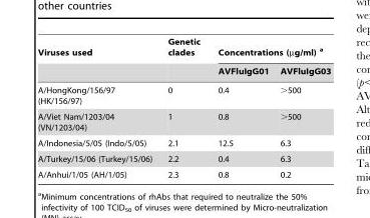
<table><thead><tr><td rowspan="2">Viruses used</td><td rowspan="2">Genetic clades</td><td colspan="2">Concentrations (µg/ml) a</td></tr><tr><td>AVFluIgG01</td><td>AVFluIgG03</td></tr></thead><tbody><tr><td>A/HongKong/156/97 (HK/156/97)</td><td>0</td><td>0.4</td><td>&gt;500</td></tr><tr><td>A/Viet Nam/1203/04 (VN/1203/04)</td><td>1</td><td>0.8</td><td>&gt;500</td></tr><tr><td>A/Indonesia/5/05 (Indo/5/05)</td><td>2.1</td><td>12.5</td><td>6.3</td></tr><tr><td>A/Turkey/15/06 (Turkey/15/06)</td><td>2.2</td><td>0.4</td><td>6.3</td></tr><tr><td>A/Anhui/1/05 (AH/1/05)</td><td>2.3</td><td>0.8</td><td>0.2</td></tr></tbody></table>